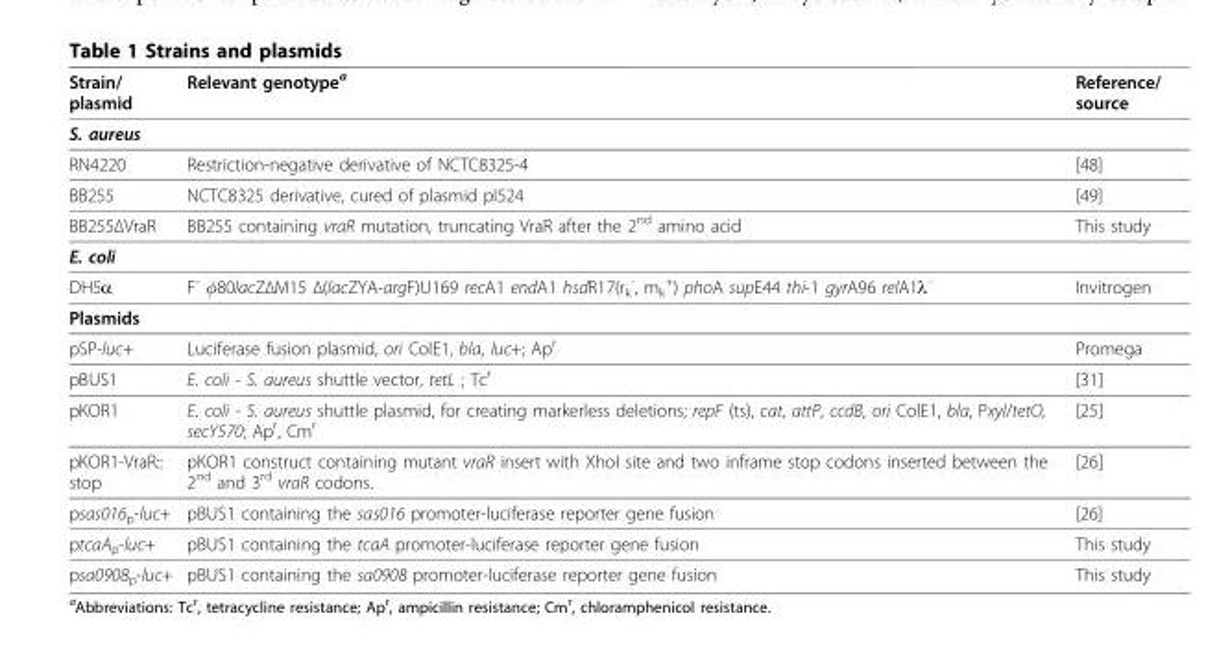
<table><thead><tr><td>Strain/ plasmid</td><td>Relevant genotypea</td><td>Reference/ source</td></tr></thead><tbody><tr><td colspan="3">S. aureus</td></tr><tr><td>RN4220</td><td>Restriction-negative derivative of NCTC8325-4</td><td>[48]</td></tr><tr><td>BB255</td><td>NCTC8325 derivative, cured of plasmid pI524</td><td>[49]</td></tr><tr><td>BB255ΔVraR</td><td>BB255 containing vraR mutation, truncating VraR after the 2nd amino acid</td><td>This study</td></tr><tr><td colspan="3">E. coli</td></tr><tr><td>DH5α</td><td>F- φ80lacZΔM15 Δ(lacZYA-argF)U169 recA1 endA1 hsdR17(rk -, mk +) phoA supE44 thi-1 gyrA96 relA1λ-</td><td>Invitrogen</td></tr><tr><td colspan="3">Plasmids</td></tr><tr><td>pSP-luc+</td><td>Luciferase fusion plasmid, ori ColE1, bla, luc+; Apr</td><td>Promega</td></tr><tr><td>pBUS1</td><td>E. coli - S. aureus shuttle vector, tetL ; Tcr</td><td>[31]</td></tr><tr><td>pKOR1</td><td>E. coli - S. aureus shuttle plasmid, for creating markerless deletions; repF (ts), cat, attP, ccdB, ori ColE1, bla, Pxyl/tetO, secY570; Apr, Cmr</td><td>[25]</td></tr><tr><td>pKOR1-VraR:: stop</td><td>pKOR1 construct containing mutant vraR insert with XhoI site and two inframe stop codons inserted between the 2nd and 3rd vraR codons.</td><td>[26]</td></tr><tr><td>psas016p-luc+</td><td>pBUS1 containing the sas016 promoter-luciferase reporter gene fusion</td><td>[26]</td></tr><tr><td>ptcaAp-luc+</td><td>pBUS1 containing the tcaA promoter-luciferase reporter gene fusion</td><td>This study</td></tr><tr><td>psa0908p-luc+</td><td>pBUS1 containing the sa0908 promoter-luciferase reporter gene fusion</td><td>This study</td></tr></tbody></table>